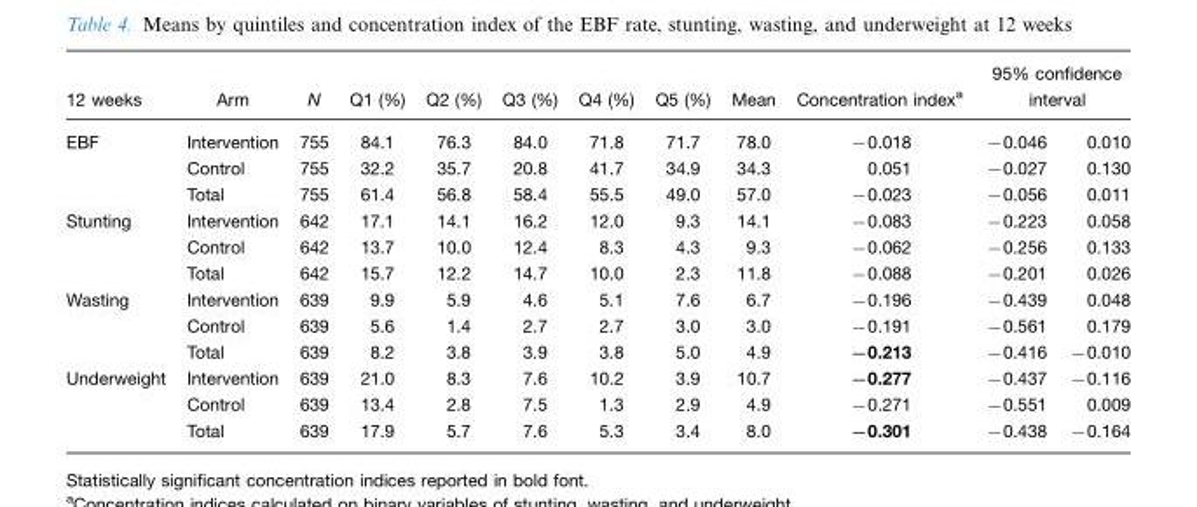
<table><thead><tr><td rowspan="2">12 weeks EBF</td><td rowspan="2">Arm Intervention</td><td rowspan="2">N 755</td><td rowspan="2">Q1 (%) 84.1</td><td rowspan="2">Q2 (%) 76.3</td><td rowspan="2">Q3 (%) 84.0</td><td rowspan="2">Q4 (%) 71.8</td><td rowspan="2">Q5 (%) 71.7</td><td rowspan="2">Mean 78.0</td><td rowspan="2">Concentration index<sup>a</sup> −0.018</td><td colspan="2">95% confidence interval</td></tr><tr><td>−0.046</td><td>0.010</td></tr></thead><tbody><tr><td></td><td>Control</td><td>755</td><td>32.2</td><td>35.7</td><td>20.8</td><td>41.7</td><td>34.9</td><td>34.3</td><td>0.051</td><td>−0.027</td><td>0.130</td></tr><tr><td></td><td>Total</td><td>755</td><td>61.4</td><td>56.8</td><td>58.4</td><td>55.5</td><td>49.0</td><td>57.0</td><td>−0.023</td><td>−0.056</td><td>0.011</td></tr><tr><td rowspan="3">Stunting</td><td>Intervention</td><td>642</td><td>17.1</td><td>14.1</td><td>16.2</td><td>12.0</td><td>9.3</td><td>14.1</td><td>−0.083</td><td>−0.223</td><td>0.058</td></tr><tr><td>Control</td><td>642</td><td>13.7</td><td>10.0</td><td>12.4</td><td>8.3</td><td>4.3</td><td>9.3</td><td>−0.062</td><td>−0.256</td><td>0.133</td></tr><tr><td>Total</td><td>642</td><td>15.7</td><td>12.2</td><td>14.7</td><td>10.0</td><td>2.3</td><td>11.8</td><td>−0.088</td><td>−0.201</td><td>0.026</td></tr><tr><td rowspan="3">Wasting</td><td>Intervention</td><td>639</td><td>9.9</td><td>5.9</td><td>4.6</td><td>5.1</td><td>7.6</td><td>6.7</td><td>−0.196</td><td>−0.439</td><td>0.048</td></tr><tr><td>Control</td><td>639</td><td>5.6</td><td>1.4</td><td>2.7</td><td>2.7</td><td>3.0</td><td>3.0</td><td>−0.191</td><td>−0.561</td><td>0.179</td></tr><tr><td>Total</td><td>639</td><td>8.2</td><td>3.8</td><td>3.9</td><td>3.8</td><td>5.0</td><td>4.9</td><td>−0.213</td><td>−0.416</td><td>−0.010</td></tr><tr><td rowspan="3">Underweight</td><td>Intervention</td><td>639</td><td>21.0</td><td>8.3</td><td>7.6</td><td>10.2</td><td>3.9</td><td>10.7</td><td>−0.277</td><td>−0.437</td><td>−0.116</td></tr><tr><td>Control</td><td>639</td><td>13.4</td><td>2.8</td><td>7.5</td><td>1.3</td><td>2.9</td><td>4.9</td><td>−0.271</td><td>−0.551</td><td>0.009</td></tr><tr><td>Total</td><td>639</td><td>17.9</td><td>5.7</td><td>7.6</td><td>5.3</td><td>3.4</td><td>8.0</td><td>−0.301</td><td>−0.438</td><td>−0.164</td></tr></tbody></table>